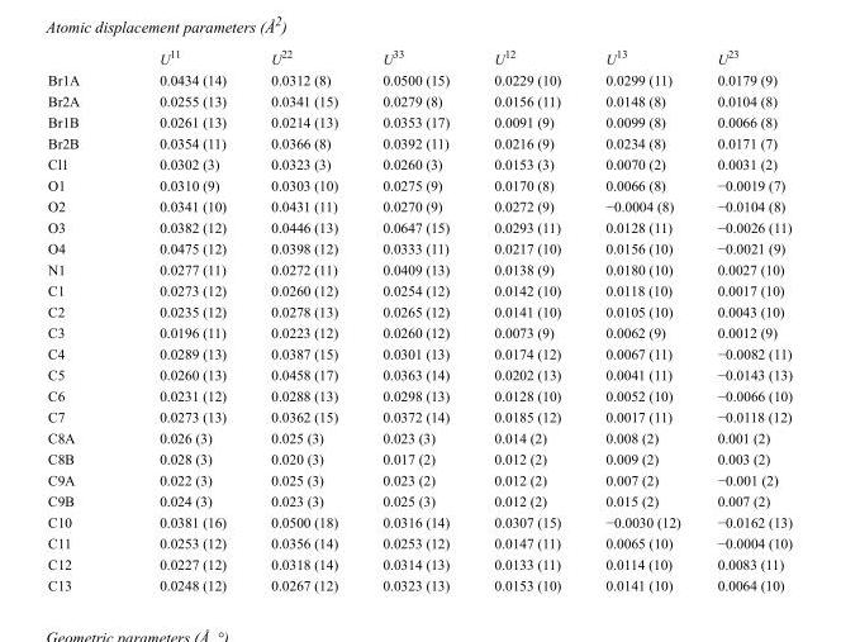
<table><thead><tr><td></td><td>U<sup>11</sup></td><td>U<sup>22</sup></td><td>U<sup>33</sup></td><td>U<sup>12</sup></td><td>U<sup>13</sup></td><td>U<sup>23</sup></td></tr></thead><tbody><tr><td>Br1A</td><td>0.0434 (14)</td><td>0.0312 (8)</td><td>0.0500 (15)</td><td>0.0229 (10)</td><td>0.0299 (11)</td><td>0.0179 (9)</td></tr><tr><td>Br2A</td><td>0.0255 (13)</td><td>0.0341 (15)</td><td>0.0279 (8)</td><td>0.0156 (11)</td><td>0.0148 (8)</td><td>0.0104 (8)</td></tr><tr><td>Br1B</td><td>0.0261 (13)</td><td>0.0214 (13)</td><td>0.0353 (17)</td><td>0.0091 (9)</td><td>0.0099 (8)</td><td>0.0066 (8)</td></tr><tr><td>Br2B</td><td>0.0354 (11)</td><td>0.0366 (8)</td><td>0.0392 (11)</td><td>0.0216 (9)</td><td>0.0234 (8)</td><td>0.0171 (7)</td></tr><tr><td>Cl1</td><td>0.0302 (3)</td><td>0.0323 (3)</td><td>0.0260 (3)</td><td>0.0153 (3)</td><td>0.0070 (2)</td><td>0.0031 (2)</td></tr><tr><td>O1</td><td>0.0310 (9)</td><td>0.0303 (10)</td><td>0.0275 (9)</td><td>0.0170 (8)</td><td>0.0066 (8)</td><td>−0.0019 (7)</td></tr><tr><td>O2</td><td>0.0341 (10)</td><td>0.0431 (11)</td><td>0.0270 (9)</td><td>0.0272 (9)</td><td>−0.0004 (8)</td><td>−0.0104 (8)</td></tr><tr><td>O3</td><td>0.0382 (12)</td><td>0.0446 (13)</td><td>0.0647 (15)</td><td>0.0293 (11)</td><td>0.0128 (11)</td><td>−0.0026 (11)</td></tr><tr><td>O4</td><td>0.0475 (12)</td><td>0.0398 (12)</td><td>0.0333 (11)</td><td>0.0217 (10)</td><td>0.0156 (10)</td><td>−0.0021 (9)</td></tr><tr><td>N1</td><td>0.0277 (11)</td><td>0.0272 (11)</td><td>0.0409 (13)</td><td>0.0138 (9)</td><td>0.0180 (10)</td><td>0.0027 (10)</td></tr><tr><td>C1</td><td>0.0273 (12)</td><td>0.0260 (12)</td><td>0.0254 (12)</td><td>0.0142 (10)</td><td>0.0118 (10)</td><td>0.0017 (10)</td></tr><tr><td>C2</td><td>0.0235 (12)</td><td>0.0278 (13)</td><td>0.0265 (12)</td><td>0.0141 (10)</td><td>0.0105 (10)</td><td>0.0043 (10)</td></tr><tr><td>C3</td><td>0.0196 (11)</td><td>0.0223 (12)</td><td>0.0260 (12)</td><td>0.0073 (9)</td><td>0.0062 (9)</td><td>0.0012 (9)</td></tr><tr><td>C4</td><td>0.0289 (13)</td><td>0.0387 (15)</td><td>0.0301 (13)</td><td>0.0174 (12)</td><td>0.0067 (11)</td><td>−0.0082 (11)</td></tr><tr><td>C5</td><td>0.0260 (13)</td><td>0.0458 (17)</td><td>0.0363 (14)</td><td>0.0202 (13)</td><td>0.0041 (11)</td><td>−0.0143 (13)</td></tr><tr><td>C6</td><td>0.0231 (12)</td><td>0.0288 (13)</td><td>0.0298 (13)</td><td>0.0128 (10)</td><td>0.0052 (10)</td><td>−0.0066 (10)</td></tr><tr><td>C7</td><td>0.0273 (13)</td><td>0.0362 (15)</td><td>0.0372 (14)</td><td>0.0185 (12)</td><td>0.0017 (11)</td><td>−0.0118 (12)</td></tr><tr><td>C8A</td><td>0.026 (3)</td><td>0.025 (3)</td><td>0.023 (3)</td><td>0.014 (2)</td><td>0.008 (2)</td><td>0.001 (2)</td></tr><tr><td>C8B</td><td>0.028 (3)</td><td>0.020 (3)</td><td>0.017 (2)</td><td>0.012 (2)</td><td>0.009 (2)</td><td>0.003 (2)</td></tr><tr><td>C9A</td><td>0.022 (3)</td><td>0.025 (3)</td><td>0.023 (2)</td><td>0.012 (2)</td><td>0.007 (2)</td><td>−0.001 (2)</td></tr><tr><td>C9B</td><td>0.024 (3)</td><td>0.023 (3)</td><td>0.025 (3)</td><td>0.012 (2)</td><td>0.015 (2)</td><td>0.007 (2)</td></tr><tr><td>C10</td><td>0.0381 (16)</td><td>0.0500 (18)</td><td>0.0316 (14)</td><td>0.0307 (15)</td><td>−0.0030 (12)</td><td>−0.0162 (13)</td></tr><tr><td>C11</td><td>0.0253 (12)</td><td>0.0356 (14)</td><td>0.0253 (12)</td><td>0.0147 (11)</td><td>0.0065 (10)</td><td>−0.0004 (10)</td></tr><tr><td>C12</td><td>0.0227 (12)</td><td>0.0318 (14)</td><td>0.0314 (13)</td><td>0.0133 (11)</td><td>0.0114 (10)</td><td>0.0083 (11)</td></tr><tr><td>C13</td><td>0.0248 (12)</td><td>0.0267 (12)</td><td>0.0323 (13)</td><td>0.0153 (10)</td><td>0.0141 (10)</td><td>0.0064 (10)</td></tr></tbody></table>